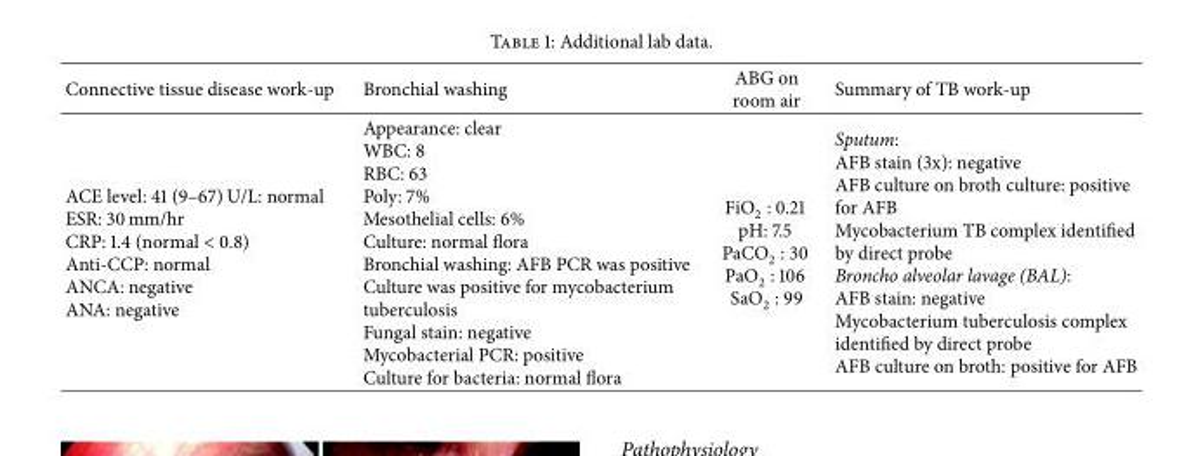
<table><thead><tr><td>Connective tissue disease work-up</td><td>Bronchial washing</td><td>ABG on room air</td><td>Summary of TB work-up</td></tr></thead><tbody><tr><td>ACE level: 41 (9–67) U/L: normal ESR: 30 mm/hr CRP: 1.4 (normal &lt; 0.8) Anti-CCP: normal ANCA: negative ANA: negative</td><td>Appearance: clear WBC: 8 RBC: 63 Poly: 7% Mesothelial cells: 6% Culture: normal flora Bronchial washing: AFB PCR was positive Culture was positive for mycobacterium tuberculosis Fungal stain: negative Mycobacterial PCR: positive Culture for bacteria: normal flora</td><td>FiO<sub>2</sub> : 0.21 pH: 7.5 PaCO<sub>2</sub> : 30 PaO<sub>2</sub> : 106 SaO<sub>2</sub> : 99</td><td>Sputum: AFB stain (3x): negative AFB culture on broth culture: positive for AFB Mycobacterium TB complex identified by direct probe Broncho alveolar lavage (BAL): AFB stain: negative Mycobacterium tuberculosis complex identified by direct probe AFB culture on broth: positive for AFB</td></tr></tbody></table>